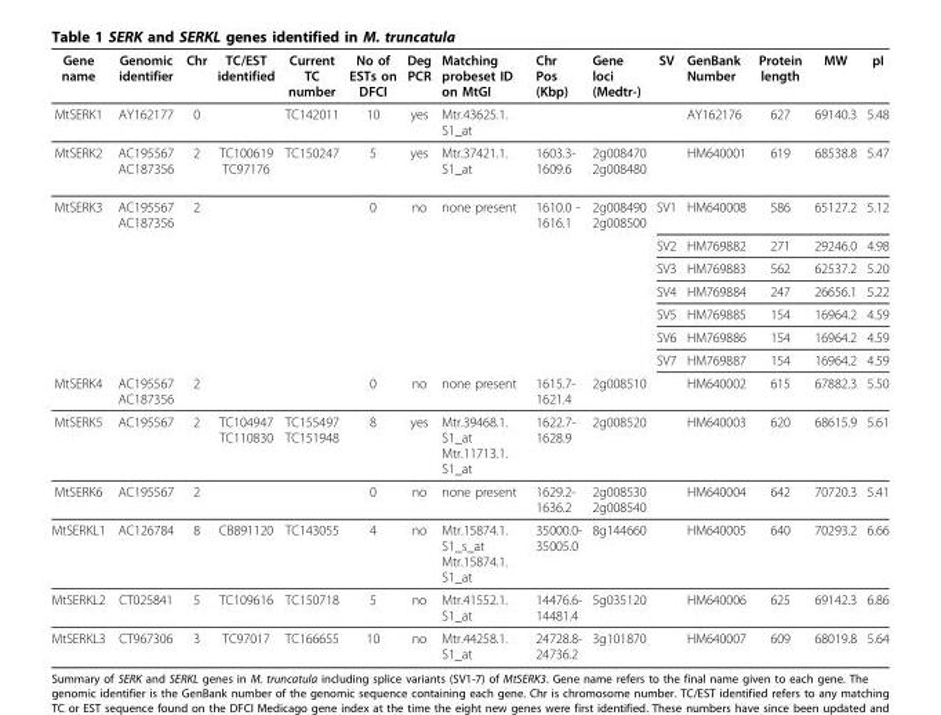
<table><thead><tr><td>Gene name</td><td>Genomic identifier</td><td>Chr</td><td>TC/EST identified</td><td>Current TC number</td><td>No of ESTs on DFCI</td><td>Deg PCR</td><td>Matching probeset ID on MtGI</td><td>Chr Pos (Kbp)</td><td>Gene loci (Medtr-)</td><td>SV</td><td>GenBank Number</td><td>Protein length</td><td>MW</td><td>pI</td></tr></thead><tbody><tr><td>MtSERK1</td><td>AY162177</td><td>0</td><td></td><td>TC142011</td><td>10</td><td>yes</td><td>Mtr.43625.1. S1_at</td><td></td><td></td><td></td><td>AY162176</td><td>627</td><td>69140.3</td><td>5.48</td></tr><tr><td>MtSERK2</td><td>AC195567 AC187356</td><td>2</td><td>TC100619 TC97176</td><td>TC150247</td><td>5</td><td>yes</td><td>Mtr.37421.1. S1_at</td><td>1603.3- 1609.6</td><td>2g008470 2g008480</td><td></td><td>HM640001</td><td>619</td><td>68538.8</td><td>5.47</td></tr><tr><td rowspan="7">MtSERK3</td><td>AC195567 AC187356</td><td>2</td><td></td><td></td><td>0</td><td>no</td><td>none present</td><td>1610.0 - 1616.1</td><td>2g008490 2g008500</td><td>SV1</td><td>HM640008</td><td>586</td><td>65127.2</td><td>5.12</td></tr><tr><td></td><td></td><td></td><td></td><td></td><td></td><td></td><td></td><td></td><td>SV2</td><td>HM769882</td><td>271</td><td>29246.0</td><td>4.98</td></tr><tr><td></td><td></td><td></td><td></td><td></td><td></td><td></td><td></td><td></td><td>SV3</td><td>HM769883</td><td>562</td><td>62537.2</td><td>5.20</td></tr><tr><td></td><td></td><td></td><td></td><td></td><td></td><td></td><td></td><td></td><td>SV4</td><td>HM769884</td><td>247</td><td>26656.1</td><td>5.22</td></tr><tr><td></td><td></td><td></td><td></td><td></td><td></td><td></td><td></td><td></td><td>SV5</td><td>HM769885</td><td>154</td><td>16964.2</td><td>4.59</td></tr><tr><td></td><td></td><td></td><td></td><td></td><td></td><td></td><td></td><td></td><td>SV6</td><td>HM769886</td><td>154</td><td>16964.2</td><td>4.59</td></tr><tr><td></td><td></td><td></td><td></td><td></td><td></td><td></td><td></td><td></td><td>SV7</td><td>HM769887</td><td>154</td><td>16964.2</td><td>4.59</td></tr><tr><td>MtSERK4</td><td>AC195567 AC187356</td><td>2</td><td></td><td></td><td>0</td><td>no</td><td>none present</td><td>1615.7- 1621.4</td><td>2g008510</td><td></td><td>HM640002</td><td>615</td><td>67882.3</td><td>5.50</td></tr><tr><td>MtSERK5</td><td>AC195567</td><td>2</td><td>TC104947 TC110830</td><td>TC155497 TC151948</td><td>8</td><td>yes</td><td>Mtr.39468.1. S1_at Mtr.11713.1. S1_at</td><td>1622.7- 1628.9</td><td>2g008520</td><td></td><td>HM640003</td><td>620</td><td>68615.9</td><td>5.61</td></tr><tr><td>MtSERK6</td><td>AC195567</td><td>2</td><td></td><td></td><td>0</td><td>no</td><td>none present</td><td>1629.2- 1636.2</td><td>2g008530 2g008540</td><td></td><td>HM640004</td><td>642</td><td>70720.3</td><td>5.41</td></tr><tr><td>MtSERKL1</td><td>AC126784</td><td>8</td><td>CB891120</td><td>TC143055</td><td>4</td><td>no</td><td>Mtr.15874.1. S1_s_at Mtr.15874.1. S1_at</td><td>35000.0- 35005.0</td><td>8g144660</td><td></td><td>HM640005</td><td>640</td><td>70293.2</td><td>6.66</td></tr><tr><td>MtSERKL2</td><td>CT025841</td><td>5</td><td>TC109616</td><td>TC150718</td><td>5</td><td>no</td><td>Mtr.41552.1. S1_at</td><td>14476.6- 14481.4</td><td>5g035120</td><td></td><td>HM640006</td><td>625</td><td>69142.3</td><td>6.86</td></tr><tr><td>MtSERKL3</td><td>CT967306</td><td>3</td><td>TC97017</td><td>TC166655</td><td>10</td><td>no</td><td>Mtr.44258.1. S1_at</td><td>24728.8- 24736.2</td><td>3g101870</td><td></td><td>HM640007</td><td>609</td><td>68019.8</td><td>5.64</td></tr></tbody></table>